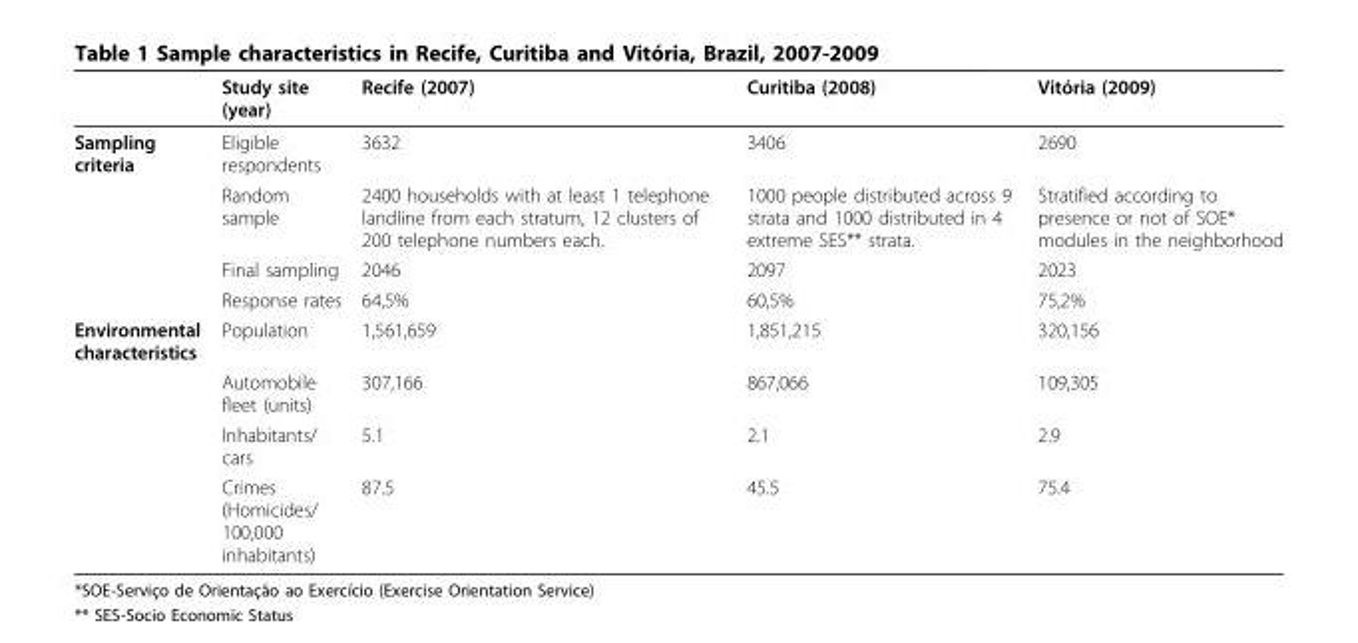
<table><thead><tr><td></td><td>Study site (year)</td><td>Recife (2007)</td><td>Curitiba (2008)</td><td>Vitória (2009)</td></tr></thead><tbody><tr><td rowspan="4">Sampling criteria</td><td>Eligible respondents</td><td>3632</td><td>3406</td><td>2690</td></tr><tr><td>Random sample</td><td>2400 households with at least 1 telephone landline from each stratum, 12 clusters of 200 telephone numbers each.</td><td>1000 people distributed across 9 strata and 1000 distributed in 4 extreme SES** strata.</td><td>Stratified according to presence or not of SOE* modules in the neighborhood</td></tr><tr><td>Final sampling</td><td>2046</td><td>2097</td><td>2023</td></tr><tr><td>Response rates</td><td>64,5%</td><td>60,5%</td><td>75,2%</td></tr><tr><td rowspan="4">Environmental characteristics</td><td>Population</td><td>1,561,659</td><td>1,851,215</td><td>320,156</td></tr><tr><td>Automobile fleet (units)</td><td>307,166</td><td>867,066</td><td>109,305</td></tr><tr><td>Inhabitants/ cars</td><td>5.1</td><td>2.1</td><td>2.9</td></tr><tr><td>Crimes (Homicides/ 100,000 inhabitants)</td><td>87.5</td><td>45.5</td><td>75.4</td></tr></tbody></table>